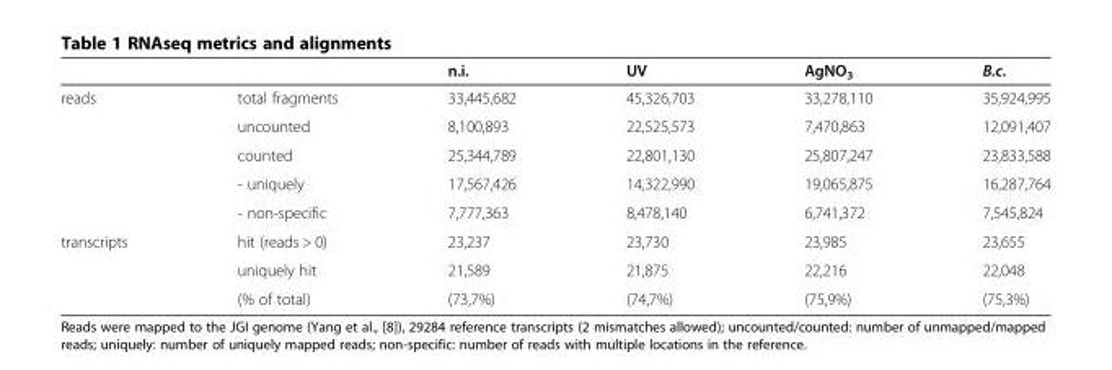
<table><thead><tr><td></td><td></td><td>n.i.</td><td>UV</td><td>AgNO<sub>3</sub></td><td>B.c.</td></tr></thead><tbody><tr><td rowspan="5">reads</td><td>total fragments</td><td>33,445,682</td><td>45,326,703</td><td>33,278,110</td><td>35,924,995</td></tr><tr><td>uncounted</td><td>8,100,893</td><td>22,525,573</td><td>7,470,863</td><td>12,091,407</td></tr><tr><td>counted</td><td>25,344,789</td><td>22,801,130</td><td>25,807,247</td><td>23,833,588</td></tr><tr><td>- uniquely</td><td>17,567,426</td><td>14,322,990</td><td>19,065,875</td><td>16,287,764</td></tr><tr><td>- non-specific</td><td>7,777,363</td><td>8,478,140</td><td>6,741,372</td><td>7,545,824</td></tr><tr><td rowspan="3">transcripts</td><td>hit (reads &gt; 0)</td><td>23,237</td><td>23,730</td><td>23,985</td><td>23,655</td></tr><tr><td>uniquely hit</td><td>21,589</td><td>21,875</td><td>22,216</td><td>22,048</td></tr><tr><td>(% of total)</td><td>(73,7%)</td><td>(74,7%)</td><td>(75,9%)</td><td>(75,3%)</td></tr></tbody></table>